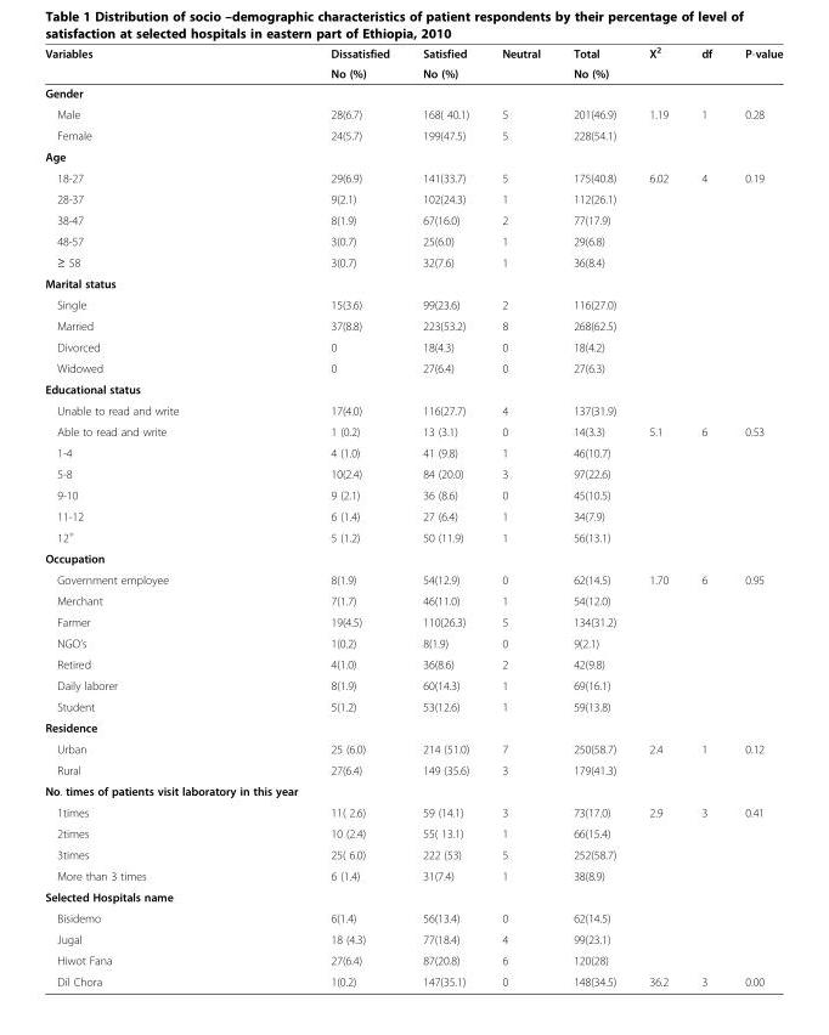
<table><thead><tr><td rowspan="2">Variables</td><td rowspan="2">Dissatisfied No (%)</td><td rowspan="2">Satisfied No (%)</td><td rowspan="2">Neutral</td><td rowspan="2">Total No (%)</td><td rowspan="2">X<sup>2</sup></td><td rowspan="2">df</td><td rowspan="2">P-value</td></tr><tr></tr></thead><tbody><tr><td colspan="8">Gender</td></tr><tr><td>Male</td><td>28(6.7)</td><td>168( 40.1)</td><td>5</td><td>201(46.9)</td><td rowspan="2">1.19</td><td rowspan="2">1</td><td rowspan="2">0.28</td></tr><tr><td>Female</td><td>24(5.7)</td><td>199(47.5)</td><td>5</td><td>228(54.1)</td></tr><tr><td colspan="8">Age</td></tr><tr><td>18-27</td><td>29(6.9)</td><td>141(33.7)</td><td>5</td><td>175(40.8)</td><td rowspan="5">6.02</td><td rowspan="5">4</td><td rowspan="5">0.19</td></tr><tr><td>28-37</td><td>9(2.1)</td><td>102(24.3)</td><td>1</td><td>112(26.1)</td></tr><tr><td>38-47</td><td>8(1.9)</td><td>67(16.0)</td><td>2</td><td>77(17.9)</td></tr><tr><td>48-57</td><td>3(0.7)</td><td>25(6.0)</td><td>1</td><td>29(6.8)</td></tr><tr><td>≥ 58</td><td>3(0.7)</td><td>32(7.6)</td><td>1</td><td>36(8.4)</td></tr><tr><td colspan="8">Marital status</td></tr><tr><td>Single</td><td>15(3.6)</td><td>99(23.6)</td><td>2</td><td>116(27.0)</td><td rowspan="4"></td><td rowspan="4"></td><td rowspan="4"></td></tr><tr><td>Married</td><td>37(8.8)</td><td>223(53.2)</td><td>8</td><td>268(62.5)</td></tr><tr><td>Divorced</td><td>0</td><td>18(4.3)</td><td>0</td><td>18(4.2)</td></tr><tr><td>Widowed</td><td>0</td><td>27(6.4)</td><td>0</td><td>27(6.3)</td></tr><tr><td colspan="8">Educational status</td></tr><tr><td>Unable to read and write</td><td>17(4.0)</td><td>116(27.7)</td><td>4</td><td>137(31.9)</td><td></td><td></td><td></td></tr><tr><td>Able to read and write</td><td>1 (0.2)</td><td>13 (3.1)</td><td>0</td><td>14(3.3)</td><td rowspan="6">5.1</td><td rowspan="6">6</td><td rowspan="6">0.53</td></tr><tr><td>1-4</td><td>4 (1.0)</td><td>41 (9.8)</td><td>1</td><td>46(10.7)</td></tr><tr><td>5-8</td><td>10(2.4)</td><td>84 (20.0)</td><td>3</td><td>97(22.6)</td></tr><tr><td>9-10</td><td>9 (2.1)</td><td>36 (8.6)</td><td>0</td><td>45(10.5)</td></tr><tr><td>11-12</td><td>6 (1.4)</td><td>27 (6.4)</td><td>1</td><td>34(7.9)</td></tr><tr><td>12<sup>+</sup></td><td>5 (1.2)</td><td>50 (11.9)</td><td>1</td><td>56(13.1)</td></tr><tr><td colspan="8">Occupation</td></tr><tr><td>Government employee</td><td>8(1.9)</td><td>54(12.9)</td><td>0</td><td>62(14.5)</td><td rowspan="7">1.70</td><td rowspan="7">6</td><td rowspan="7">0.95</td></tr><tr><td>Merchant</td><td>7(1.7)</td><td>46(11.0)</td><td>1</td><td>54(12.0)</td></tr><tr><td>Farmer</td><td>19(4.5)</td><td>110(26.3)</td><td>5</td><td>134(31.2)</td></tr><tr><td>NGO’s</td><td>1(0.2)</td><td>8(1.9)</td><td>0</td><td>9(2.1)</td></tr><tr><td>Retired</td><td>4(1.0)</td><td>36(8.6)</td><td>2</td><td>42(9.8)</td></tr><tr><td>Daily laborer</td><td>8(1.9)</td><td>60(14.3)</td><td>1</td><td>69(16.1)</td></tr><tr><td>Student</td><td>5(1.2)</td><td>53(12.6)</td><td>1</td><td>59(13.8)</td></tr><tr><td colspan="8">Residence</td></tr><tr><td>Urban</td><td>25 (6.0)</td><td>214 (51.0)</td><td>7</td><td>250(58.7)</td><td rowspan="2">2.4</td><td rowspan="2">1</td><td rowspan="2">0.12</td></tr><tr><td>Rural</td><td>27(6.4)</td><td>149 (35.6)</td><td>3</td><td>179(41.3)</td></tr><tr><td colspan="8">No. times of patients visit laboratory in this year</td></tr><tr><td>1times</td><td>11( 2.6)</td><td>59 (14.1)</td><td>3</td><td>73(17.0)</td><td rowspan="4">2.9</td><td rowspan="4">3</td><td rowspan="4">0.41</td></tr><tr><td>2times</td><td>10 (2.4)</td><td>55( 13.1)</td><td>1</td><td>66(15.4)</td></tr><tr><td>3times</td><td>25( 6.0)</td><td>222 (53)</td><td>5</td><td>252(58.7)</td></tr><tr><td>More than 3 times</td><td>6 (1.4)</td><td>31(7.4)</td><td>1</td><td>38(8.9)</td></tr><tr><td colspan="8">Selected Hospitals name</td></tr><tr><td>Bisidemo</td><td>6(1.4)</td><td>56(13.4)</td><td>0</td><td>62(14.5)</td><td></td><td></td><td></td></tr><tr><td>Jugal</td><td>18 (4.3)</td><td>77(18.4)</td><td>4</td><td>99(23.1)</td><td></td><td></td><td></td></tr><tr><td>Hiwot Fana</td><td>27(6.4)</td><td>87(20.8)</td><td>6</td><td>120(28)</td><td></td><td></td><td></td></tr><tr><td>Dil Chora</td><td>1(0.2)</td><td>147(35.1)</td><td>0</td><td>148(34.5)</td><td>36.2</td><td>3</td><td>0.00</td></tr></tbody></table>